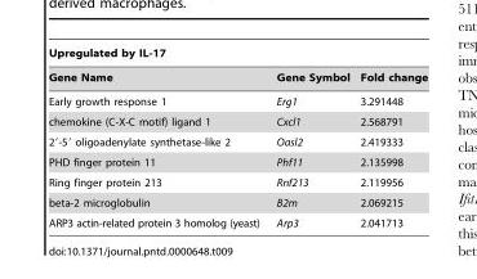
<table><thead><tr><td colspan="3">Upregulated by IL-17</td></tr><tr><td>Gene Name</td><td>Gene Symbol</td><td>Fold change</td></tr></thead><tbody><tr><td>Early growth response 1</td><td>Erg1</td><td>3.291448</td></tr><tr><td>chemokine (C-X-C motif) ligand 1</td><td>Cxcl1</td><td>2.568791</td></tr><tr><td>2′-5′ oligoadenylate synthetase-like 2</td><td>Oasl2</td><td>2.419333</td></tr><tr><td>PHD finger protein 11</td><td>Phf11</td><td>2.135998</td></tr><tr><td>Ring finger protein 213</td><td>Rnf213</td><td>2.119956</td></tr><tr><td>beta-2 microglobulin</td><td>B2m</td><td>2.069215</td></tr><tr><td>ARP3 actin-related protein 3 homolog (yeast)</td><td>Arp3</td><td>2.041713</td></tr></tbody></table>